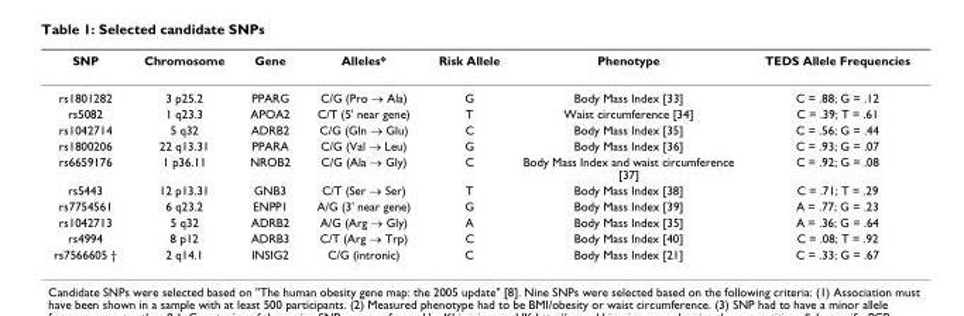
<table><thead><tr><td>SNP</td><td>Chromosome</td><td>Gene</td><td>Alleles*</td><td>Risk Allele</td><td>Phenotype</td><td>TEDS Allele Frequencies</td></tr></thead><tbody><tr><td>rs1801282</td><td>3 p25.2</td><td>PPARG</td><td>C/G (Pro → Ala)</td><td>G</td><td>Body Mass Index [33]</td><td>C = .88; G = .12</td></tr><tr><td>rs5082</td><td>1 q23.3</td><td>APOA2</td><td>C/T (5&#x27; near gene)</td><td>T</td><td>Waist circumference [34]</td><td>C = .39; T = .61</td></tr><tr><td>rs1042714</td><td>5 q32</td><td>ADRB2</td><td>C/G (Gln → Glu)</td><td>C</td><td>Body Mass Index [35]</td><td>C = .56; G = .44</td></tr><tr><td>rs1800206</td><td>22 q13.31</td><td>PPARA</td><td>C/G (Val → Leu)</td><td>G</td><td>Body Mass Index [36]</td><td>C = .93; G = .07</td></tr><tr><td>rs6659176</td><td>1 p36.11</td><td>NROB2</td><td>C/G (Ala → Gly)</td><td>C</td><td>Body Mass Index and waist circumference [37]</td><td>C = .92; G = .08</td></tr><tr><td>rs5443</td><td>12 p13.31</td><td>GNB3</td><td>C/T (Ser → Ser)</td><td>T</td><td>Body Mass Index [38]</td><td>C = .71; T = .29</td></tr><tr><td>rs7754561</td><td>6 q23.2</td><td>ENPP1</td><td>A/G (3&#x27; near gene)</td><td>G</td><td>Body Mass Index [39]</td><td>A = .77; G = .23</td></tr><tr><td>rs1042713</td><td>5 q32</td><td>ADRB2</td><td>A/G (Arg → Gly)</td><td>A</td><td>Body Mass Index [35]</td><td>A = .36; G = .64</td></tr><tr><td>rs4994</td><td>8 p12</td><td>ADRB3</td><td>C/T (Arg → Trp)</td><td>C</td><td>Body Mass Index [40]</td><td>C = .08; T = .92</td></tr><tr><td>rs7566605 †</td><td>2 q14.1</td><td>INSIG2</td><td>C/G (intronic)</td><td>C</td><td>Body Mass Index [21]</td><td>C = .33; G = .67</td></tr></tbody></table>